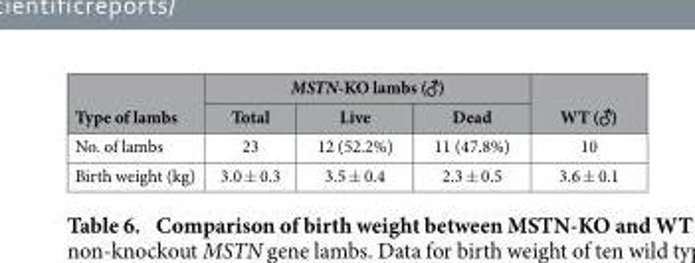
<table><thead><tr><td rowspan="2">Type of lambs</td><td colspan="3">MSTN-KO lambs ( )</td><td rowspan="2">WT ( )</td></tr><tr><td>Total</td><td>Live</td><td>Dead</td></tr></thead><tbody><tr><td>No. of lambs</td><td>23</td><td>12 (52.2%)</td><td>11 (47.8%)</td><td>10</td></tr><tr><td>Birth weight (kg)</td><td>3.0 ± 0.3</td><td>3.5 ± 0.4</td><td>2.3 ± 0.5</td><td>3.6 ± 0.1</td></tr></tbody></table>